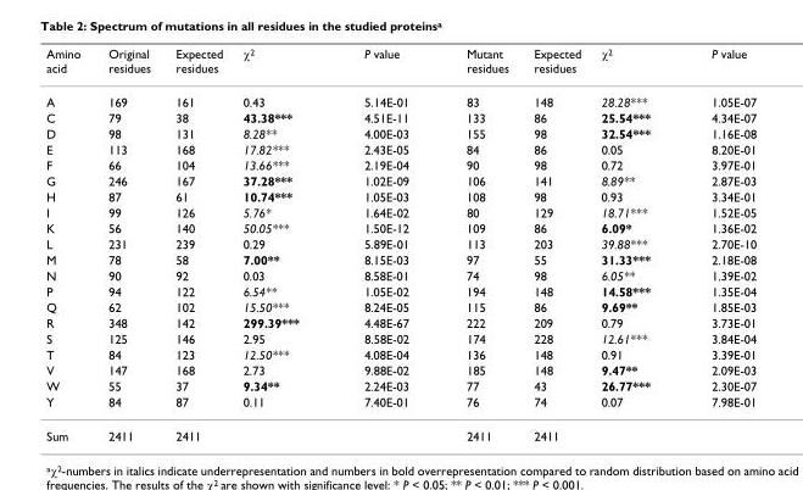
<table><thead><tr><td>Amino acid</td><td>Original residues</td><td>Expected residues</td><td>χ<sup>2</sup></td><td>P value</td><td>Mutant residues</td><td>Expected residues</td><td>χ<sup>2</sup></td><td>P value</td></tr></thead><tbody><tr><td>A</td><td>169</td><td>161</td><td>0.43</td><td>5.14E-01</td><td>83</td><td>148</td><td>28.28***</td><td>1.05E-07</td></tr><tr><td>C</td><td>79</td><td>38</td><td>43.38***</td><td>4.51E-11</td><td>133</td><td>86</td><td>25.54***</td><td>4.34E-07</td></tr><tr><td>D</td><td>98</td><td>131</td><td>8.28**</td><td>4.00E-03</td><td>155</td><td>98</td><td>32.54***</td><td>1.16E-08</td></tr><tr><td>E</td><td>113</td><td>168</td><td>17.82***</td><td>2.43E-05</td><td>84</td><td>86</td><td>0.05</td><td>8.20E-01</td></tr><tr><td>F</td><td>66</td><td>104</td><td>13.66***</td><td>2.19E-04</td><td>90</td><td>98</td><td>0.72</td><td>3.97E-01</td></tr><tr><td>G</td><td>246</td><td>167</td><td>37.28***</td><td>1.02E-09</td><td>106</td><td>141</td><td>8.89**</td><td>2.87E-03</td></tr><tr><td>H</td><td>87</td><td>61</td><td>10.74***</td><td>1.05E-03</td><td>108</td><td>98</td><td>0.93</td><td>3.34E-01</td></tr><tr><td>I</td><td>99</td><td>126</td><td>5.76*</td><td>1.64E-02</td><td>80</td><td>129</td><td>18.71***</td><td>1.52E-05</td></tr><tr><td>K</td><td>56</td><td>140</td><td>50.05***</td><td>1.50E-12</td><td>109</td><td>86</td><td>6.09*</td><td>1.36E-02</td></tr><tr><td>L</td><td>231</td><td>239</td><td>0.29</td><td>5.89E-01</td><td>113</td><td>203</td><td>39.88***</td><td>2.70E-10</td></tr><tr><td>M</td><td>78</td><td>58</td><td>7.00**</td><td>8.15E-03</td><td>97</td><td>55</td><td>31.33***</td><td>2.18E-08</td></tr><tr><td>N</td><td>90</td><td>92</td><td>0.03</td><td>8.58E-01</td><td>74</td><td>98</td><td>6.05**</td><td>1.39E-02</td></tr><tr><td>P</td><td>94</td><td>122</td><td>6.54**</td><td>1.05E-02</td><td>194</td><td>148</td><td>14.58***</td><td>1.35E-04</td></tr><tr><td>Q</td><td>62</td><td>102</td><td>15.50***</td><td>8.24E-05</td><td>115</td><td>86</td><td>9.69**</td><td>1.85E-03</td></tr><tr><td>R</td><td>348</td><td>142</td><td>299.39***</td><td>4.48E-67</td><td>222</td><td>209</td><td>0.79</td><td>3.73E-01</td></tr><tr><td>S</td><td>125</td><td>146</td><td>2.95</td><td>8.58E-02</td><td>174</td><td>228</td><td>12.61***</td><td>3.84E-04</td></tr><tr><td>T</td><td>84</td><td>123</td><td>12.50***</td><td>4.08E-04</td><td>136</td><td>148</td><td>0.91</td><td>3.39E-01</td></tr><tr><td>V</td><td>147</td><td>168</td><td>2.73</td><td>9.88E-02</td><td>185</td><td>148</td><td>9.47**</td><td>2.09E-03</td></tr><tr><td>W</td><td>55</td><td>37</td><td>9.34**</td><td>2.24E-03</td><td>77</td><td>43</td><td>26.77***</td><td>2.30E-07</td></tr><tr><td>Y</td><td>84</td><td>87</td><td>0.11</td><td>7.40E-01</td><td>76</td><td>74</td><td>0.07</td><td>7.98E-01</td></tr><tr><td>Sum</td><td>2411</td><td>2411</td><td></td><td></td><td>2411</td><td>2411</td><td></td><td></td></tr></tbody></table>